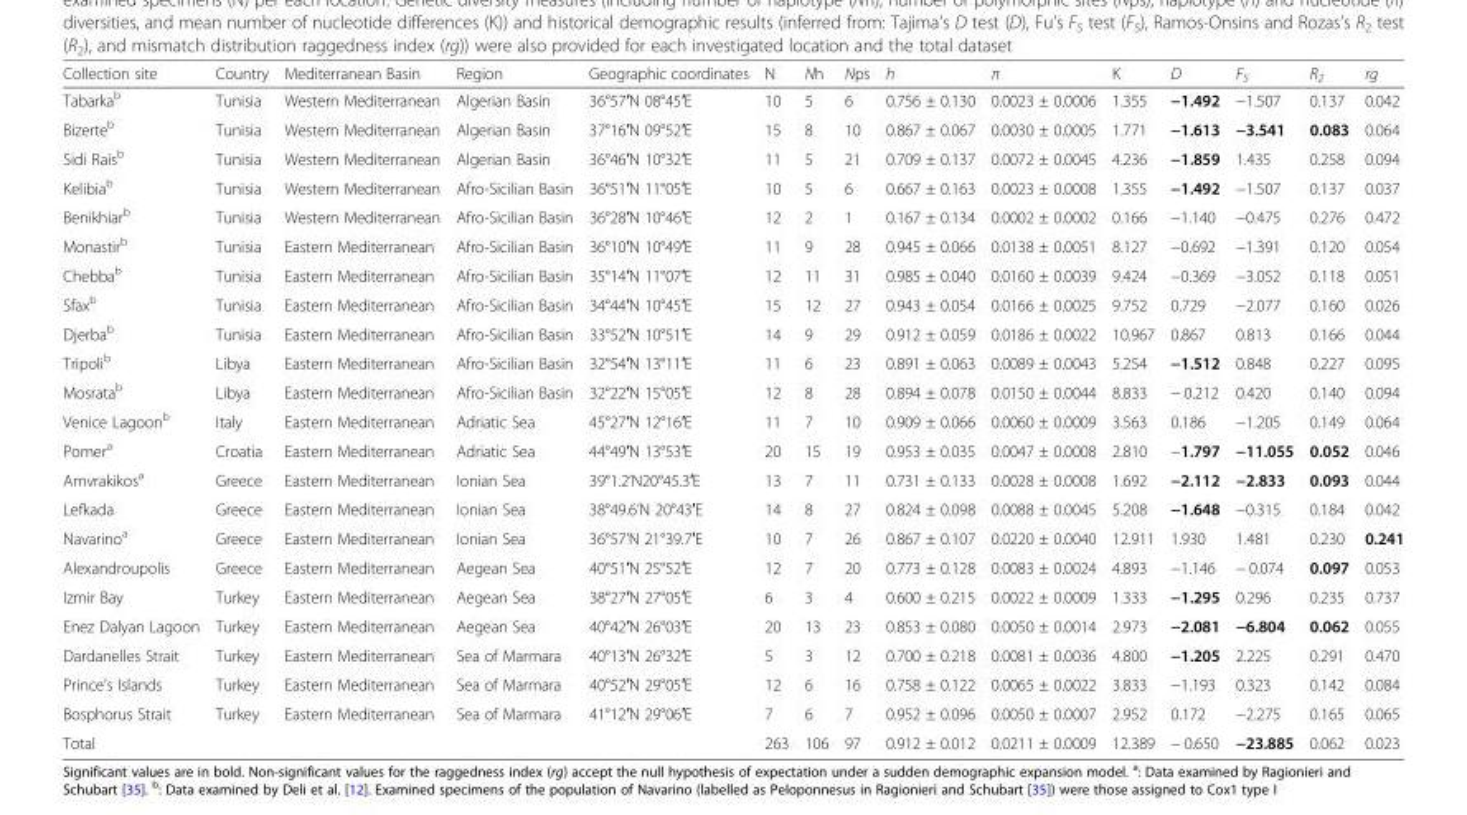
<table><thead><tr><td>Collection site</td><td>Country</td><td>Mediterranean Basin</td><td>Region</td><td>Geographic coordinates</td><td>N</td><td>Nh</td><td>Nps</td><td>h</td><td>π</td><td>K</td><td>D</td><td>F<sub>S</sub></td><td>R<sub>2</sub></td><td>rg</td></tr></thead><tbody><tr><td>Tabarka<sup>b</sup></td><td>Tunisia</td><td>Western Mediterranean</td><td>Algerian Basin</td><td>36°57′N 08°45′E</td><td>10</td><td>5</td><td>6</td><td>0.756 ± 0.130</td><td>0.0023 ± 0.0006</td><td>1.355</td><td>−1.492</td><td>−1.507</td><td>0.137</td><td>0.042</td></tr><tr><td>Bizerte<sup>b</sup></td><td>Tunisia</td><td>Western Mediterranean</td><td>Algerian Basin</td><td>37°16′N 09°52′E</td><td>15</td><td>8</td><td>10</td><td>0.867 ± 0.067</td><td>0.0030 ± 0.0005</td><td>1.771</td><td>−1.613</td><td>−3.541</td><td>0.083</td><td>0.064</td></tr><tr><td>Sidi Rais<sup>b</sup></td><td>Tunisia</td><td>Western Mediterranean</td><td>Algerian Basin</td><td>36°46′N 10°32′E</td><td>11</td><td>5</td><td>21</td><td>0.709 ± 0.137</td><td>0.0072 ± 0.0045</td><td>4.236</td><td>−1.859</td><td>1.435</td><td>0.258</td><td>0.094</td></tr><tr><td>Kelibia<sup>b</sup></td><td>Tunisia</td><td>Western Mediterranean</td><td>Afro-Sicilian Basin</td><td>36°51′N 11°05′E</td><td>10</td><td>5</td><td>6</td><td>0.667 ± 0.163</td><td>0.0023 ± 0.0008</td><td>1.355</td><td>−1.492</td><td>−1.507</td><td>0.137</td><td>0.037</td></tr><tr><td>Benikhiar<sup>b</sup></td><td>Tunisia</td><td>Western Mediterranean</td><td>Afro-Sicilian Basin</td><td>36°28′N 10°46′E</td><td>12</td><td>2</td><td>1</td><td>0.167 ± 0.134</td><td>0.0002 ± 0.0002</td><td>0.166</td><td>−1.140</td><td>−0.475</td><td>0.276</td><td>0.472</td></tr><tr><td>Monastir<sup>b</sup></td><td>Tunisia</td><td>Eastern Mediterranean</td><td>Afro-Sicilian Basin</td><td>36°10′N 10°49′E</td><td>11</td><td>9</td><td>28</td><td>0.945 ± 0.066</td><td>0.0138 ± 0.0051</td><td>8.127</td><td>−0.692</td><td>−1.391</td><td>0.120</td><td>0.054</td></tr><tr><td>Chebba<sup>b</sup></td><td>Tunisia</td><td>Eastern Mediterranean</td><td>Afro-Sicilian Basin</td><td>35°14′N 11°07′E</td><td>12</td><td>11</td><td>31</td><td>0.985 ± 0.040</td><td>0.0160 ± 0.0039</td><td>9.424</td><td>−0.369</td><td>−3.052</td><td>0.118</td><td>0.051</td></tr><tr><td>Sfax<sup>b</sup></td><td>Tunisia</td><td>Eastern Mediterranean</td><td>Afro-Sicilian Basin</td><td>34°44′N 10°45′E</td><td>15</td><td>12</td><td>27</td><td>0.943 ± 0.054</td><td>0.0166 ± 0.0025</td><td>9.752</td><td>0.729</td><td>−2.077</td><td>0.160</td><td>0.026</td></tr><tr><td>Djerba<sup>b</sup></td><td>Tunisia</td><td>Eastern Mediterranean</td><td>Afro-Sicilian Basin</td><td>33°52′N 10°51′E</td><td>14</td><td>9</td><td>29</td><td>0.912 ± 0.059</td><td>0.0186 ± 0.0022</td><td>10.967</td><td>0.867</td><td>0.813</td><td>0.166</td><td>0.044</td></tr><tr><td>Tripoli<sup>b</sup></td><td>Libya</td><td>Eastern Mediterranean</td><td>Afro-Sicilian Basin</td><td>32°54′N 13°11′E</td><td>11</td><td>6</td><td>23</td><td>0.891 ± 0.063</td><td>0.0089 ± 0.0043</td><td>5.254</td><td>−1.512</td><td>0.848</td><td>0.227</td><td>0.095</td></tr><tr><td>Mosrata<sup>b</sup></td><td>Libya</td><td>Eastern Mediterranean</td><td>Afro-Sicilian Basin</td><td>32°22′N 15°05′E</td><td>12</td><td>8</td><td>28</td><td>0.894 ± 0.078</td><td>0.0150 ± 0.0044</td><td>8.833</td><td>− 0.212</td><td>0.420</td><td>0.140</td><td>0.094</td></tr><tr><td>Venice Lagoon<sup>b</sup></td><td>Italy</td><td>Eastern Mediterranean</td><td>Adriatic Sea</td><td>45°27′N 12°16′E</td><td>11</td><td>7</td><td>10</td><td>0.909 ± 0.066</td><td>0.0060 ± 0.0009</td><td>3.563</td><td>0.186</td><td>−1.205</td><td>0.149</td><td>0.064</td></tr><tr><td>Pomer<sup>a</sup></td><td>Croatia</td><td>Eastern Mediterranean</td><td>Adriatic Sea</td><td>44°49′N 13°53′E</td><td>20</td><td>15</td><td>19</td><td>0.953 ± 0.035</td><td>0.0047 ± 0.0008</td><td>2.810</td><td>−1.797</td><td>−11.055</td><td>0.052</td><td>0.046</td></tr><tr><td>Amvrakikos<sup>a</sup></td><td>Greece</td><td>Eastern Mediterranean</td><td>Ionian Sea</td><td>39°1.2’N20°45.3′E</td><td>13</td><td>7</td><td>11</td><td>0.731 ± 0.133</td><td>0.0028 ± 0.0008</td><td>1.692</td><td>−2.112</td><td>−2.833</td><td>0.093</td><td>0.044</td></tr><tr><td>Lefkada</td><td>Greece</td><td>Eastern Mediterranean</td><td>Ionian Sea</td><td>38°49.6’N 20°43′E</td><td>14</td><td>8</td><td>27</td><td>0.824 ± 0.098</td><td>0.0088 ± 0.0045</td><td>5.208</td><td>−1.648</td><td>−0.315</td><td>0.184</td><td>0.042</td></tr><tr><td>Navarino<sup>a</sup></td><td>Greece</td><td>Eastern Mediterranean</td><td>Ionian Sea</td><td>36°57’N 21°39.7′E</td><td>10</td><td>7</td><td>26</td><td>0.867 ± 0.107</td><td>0.0220 ± 0.0040</td><td>12.911</td><td>1.930</td><td>1.481</td><td>0.230</td><td>0.241</td></tr><tr><td>Alexandroupolis</td><td>Greece</td><td>Eastern Mediterranean</td><td>Aegean Sea</td><td>40°51′N 25°52′E</td><td>12</td><td>7</td><td>20</td><td>0.773 ± 0.128</td><td>0.0083 ± 0.0024</td><td>4.893</td><td>−1.146</td><td>− 0.074</td><td>0.097</td><td>0.053</td></tr><tr><td>Izmir Bay</td><td>Turkey</td><td>Eastern Mediterranean</td><td>Aegean Sea</td><td>38°27′N 27°05′E</td><td>6</td><td>3</td><td>4</td><td>0.600 ± 0.215</td><td>0.0022 ± 0.0009</td><td>1.333</td><td>−1.295</td><td>0.296</td><td>0.235</td><td>0.737</td></tr><tr><td>Enez Dalyan Lagoon</td><td>Turkey</td><td>Eastern Mediterranean</td><td>Aegean Sea</td><td>40°42′N 26°03′E</td><td>20</td><td>13</td><td>23</td><td>0.853 ± 0.080</td><td>0.0050 ± 0.0014</td><td>2.973</td><td>−2.081</td><td>−6.804</td><td>0.062</td><td>0.055</td></tr><tr><td>Dardanelles Strait</td><td>Turkey</td><td>Eastern Mediterranean</td><td>Sea of Marmara</td><td>40°13′N 26°32′E</td><td>5</td><td>3</td><td>12</td><td>0.700 ± 0.218</td><td>0.0081 ± 0.0036</td><td>4.800</td><td>−1.205</td><td>2.225</td><td>0.291</td><td>0.470</td></tr><tr><td>Prince’s Islands</td><td>Turkey</td><td>Eastern Mediterranean</td><td>Sea of Marmara</td><td>40°52′N 29°05′E</td><td>12</td><td>6</td><td>16</td><td>0.758 ± 0.122</td><td>0.0065 ± 0.0022</td><td>3.833</td><td>−1.193</td><td>0.323</td><td>0.142</td><td>0.084</td></tr><tr><td>Bosphorus Strait</td><td>Turkey</td><td>Eastern Mediterranean</td><td>Sea of Marmara</td><td>41°12′N 29°06′E</td><td>7</td><td>6</td><td>7</td><td>0.952 ± 0.096</td><td>0.0050 ± 0.0007</td><td>2.952</td><td>0.172</td><td>−2.275</td><td>0.165</td><td>0.065</td></tr><tr><td>Total</td><td></td><td></td><td></td><td></td><td>263</td><td>106</td><td>97</td><td>0.912 ± 0.012</td><td>0.0211 ± 0.0009</td><td>12.389</td><td>− 0.650</td><td>−23.885</td><td>0.062</td><td>0.023</td></tr></tbody></table>